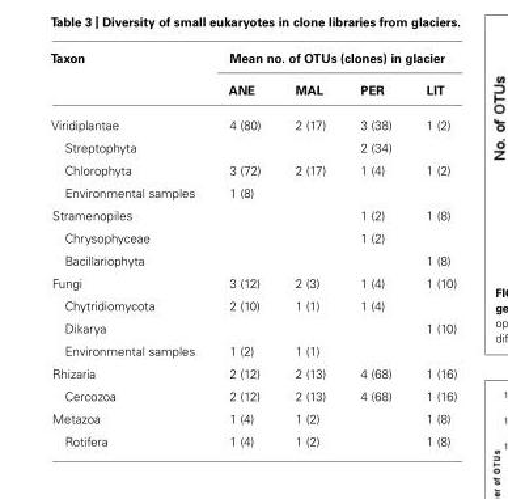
<table><thead><tr><td rowspan="2">Taxon</td><td colspan="4">Mean no. of OTUs (clones) in glacier</td></tr><tr><td>ANE</td><td>MAL</td><td>PER</td><td>LIT</td></tr></thead><tbody><tr><td>Viridiplantae</td><td>4 (80)</td><td>2 (17)</td><td>3 (38)</td><td>1 (2)</td></tr><tr><td>Streptophyta</td><td></td><td></td><td>2 (34)</td><td></td></tr><tr><td>Chlorophyta</td><td>3 (72)</td><td>2 (17)</td><td>1 (4)</td><td>1 (2)</td></tr><tr><td>Environmental samples</td><td>1 (8)</td><td></td><td></td><td></td></tr><tr><td>Stramenopiles</td><td></td><td></td><td>1 (2)</td><td>1 (8)</td></tr><tr><td>Chrysophyceae</td><td></td><td></td><td>1 (2)</td><td></td></tr><tr><td>Bacillariophyta</td><td></td><td></td><td></td><td>1 (8)</td></tr><tr><td>Fungi</td><td>3 (12)</td><td>2 (3)</td><td>1 (4)</td><td>1 (10)</td></tr><tr><td>Chytridiomycota</td><td>2 (10)</td><td>1 (1)</td><td>1 (4)</td><td></td></tr><tr><td>Dikarya</td><td></td><td></td><td></td><td>1 (10)</td></tr><tr><td>Environmental samples</td><td>1 (2)</td><td>1 (1)</td><td></td><td></td></tr><tr><td>Rhizaria</td><td>2 (12)</td><td>2 (13)</td><td>4 (68)</td><td>1 (16)</td></tr><tr><td>Cercozoa</td><td>2 (12)</td><td>2 (13)</td><td>4 (68)</td><td>1 (16)</td></tr><tr><td>Metazoa</td><td>1 (4)</td><td>1 (2)</td><td></td><td>1 (8)</td></tr><tr><td>Rotifera</td><td>1 (4)</td><td>1 (2)</td><td></td><td>1 (8)</td></tr></tbody></table>